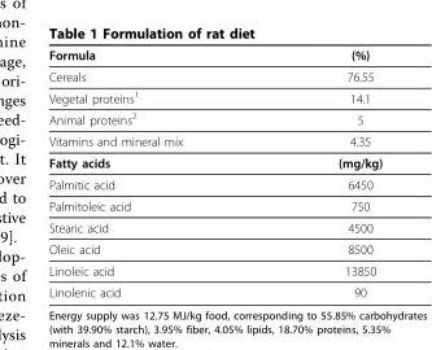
<table><thead><tr><td>Formula</td><td>(%)</td></tr></thead><tbody><tr><td>Cereals</td><td>76.55</td></tr><tr><td>Vegetal proteins<sup>1</sup></td><td>14.1</td></tr><tr><td>Animal proteins<sup>2</sup></td><td>5</td></tr><tr><td>Vitamins and mineral mix</td><td>4.35</td></tr><tr><td>Fatty acids</td><td>(mg/kg)</td></tr><tr><td>Palmitic acid</td><td>6450</td></tr><tr><td>Palmitoleic acid</td><td>750</td></tr><tr><td>Stearic acid</td><td>4500</td></tr><tr><td>Oleic acid</td><td>8500</td></tr><tr><td>Linoleic acid</td><td>13850</td></tr><tr><td>Linolenic acid</td><td>90</td></tr></tbody></table>